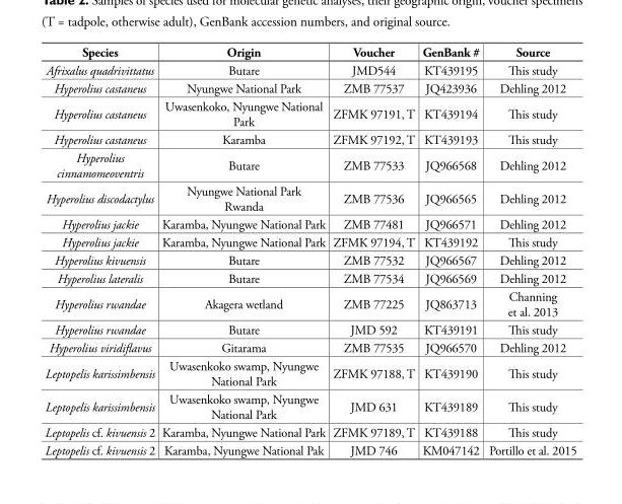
<table><thead><tr><td>Species</td><td>Origin</td><td>Voucher</td><td>GenBank #</td><td>Source</td></tr></thead><tbody><tr><td>Afrixalus quadrivittatus</td><td>Butare</td><td>JMD544</td><td>KT439195</td><td>This study</td></tr><tr><td>Hyperolius castaneus</td><td>Nyungwe National Park</td><td>ZMB 77537</td><td>JQ423936</td><td>Dehling 2012</td></tr><tr><td>Hyperolius castaneus</td><td>Uwasenkoko, Nyungwe National Park</td><td>ZFMK 97191, T</td><td>KT439194</td><td>This study</td></tr><tr><td>Hyperolius castaneus</td><td>Karamba</td><td>ZFMK 97192, T</td><td>KT439193</td><td>This study</td></tr><tr><td>Hyperolius cinnamomeoventris</td><td>Butare</td><td>ZMB 77533</td><td>JQ966568</td><td>Dehling 2012</td></tr><tr><td>Hyperolius discodactylus</td><td>Nyungwe National Park Rwanda</td><td>ZMB 77536</td><td>JQ966565</td><td>Dehling 2012</td></tr><tr><td>Hyperolius jackie</td><td>Karamba, Nyungwe National Park</td><td>ZMB 77481</td><td>JQ966571</td><td>Dehling 2012</td></tr><tr><td>Hyperolius jackie</td><td>Karamba, Nyungwe National Park</td><td>ZFMK 97194, T</td><td>KT439192</td><td>This study</td></tr><tr><td>Hyperolius kivuensis</td><td>Butare</td><td>ZMB 77532</td><td>JQ966567</td><td>Dehling 2012</td></tr><tr><td>Hyperolius lateralis</td><td>Butare</td><td>ZMB 77534</td><td>JQ966569</td><td>Dehling 2012</td></tr><tr><td>Hyperolius rwandae</td><td>Akagera wetland</td><td>ZMB 77225</td><td>JQ863713</td><td>Channing et al. 2013</td></tr><tr><td>Hyperolius rwandae</td><td>Butare</td><td>JMD 592</td><td>KT439191</td><td>This study</td></tr><tr><td>Hyperolius viridiflavus</td><td>Gitarama</td><td>ZMB 77535</td><td>JQ966570</td><td>Dehling 2012</td></tr><tr><td>Leptopelis karissimbensis</td><td>Uwasenkoko swamp, Nyungwe National Park</td><td>ZFMK 97188, T</td><td>KT439190</td><td>This study</td></tr><tr><td>Leptopelis karissimbensis</td><td>Uwasenkoko swamp, Nyungwe National Park</td><td>JMD 631</td><td>KT439189</td><td>This study</td></tr><tr><td>Leptopelis cf. kivuensis 2</td><td>Karamba, Nyungwe National Park</td><td>ZFMK 97189, T</td><td>KT439188</td><td>This study</td></tr><tr><td>Leptopelis cf. kivuensis 2</td><td>Karamba, Nyungwe National Pak</td><td>JMD 746</td><td>KM047142</td><td>Portillo et al. 2015</td></tr></tbody></table>